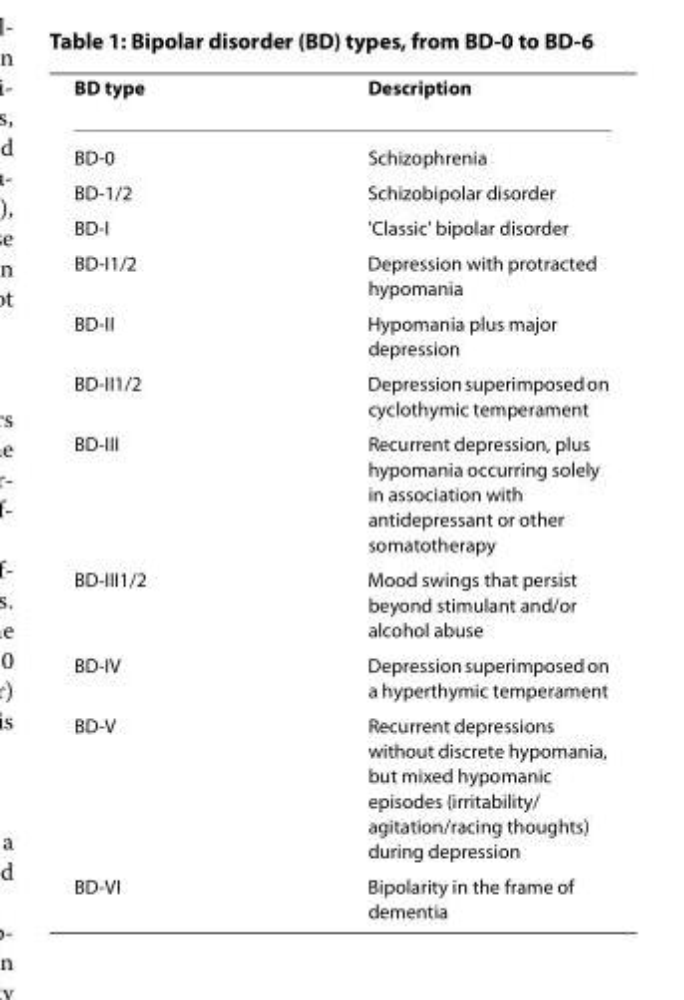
<table><thead><tr><td>BD type</td><td>Description</td></tr></thead><tbody><tr><td>BD-0</td><td>Schizophrenia</td></tr><tr><td>BD-1/2</td><td>Schizobipolar disorder</td></tr><tr><td>BD-I</td><td>&#x27;Classic&#x27; bipolar disorder</td></tr><tr><td>BD-I1/2</td><td>Depression with protracted hypomania</td></tr><tr><td>BD-II</td><td>Hypomania plus major depression</td></tr><tr><td>BD-II1/2</td><td>Depression superimposed on cyclothymic temperament</td></tr><tr><td>BD-III</td><td>Recurrent depression, plus hypomania occurring solely in association with antidepressant or other somatotherapy</td></tr><tr><td>BD-III1/2</td><td>Mood swings that persist beyond stimulant and/or alcohol abuse</td></tr><tr><td>BD-IV</td><td>Depression superimposed on a hyperthymic temperament</td></tr><tr><td>BD-V</td><td>Recurrent depressions without discrete hypomania, but mixed hypomanic episodes (irritability/ agitation/racing thoughts) during depression</td></tr><tr><td>BD-VI</td><td>Bipolarity in the frame of dementia</td></tr></tbody></table>